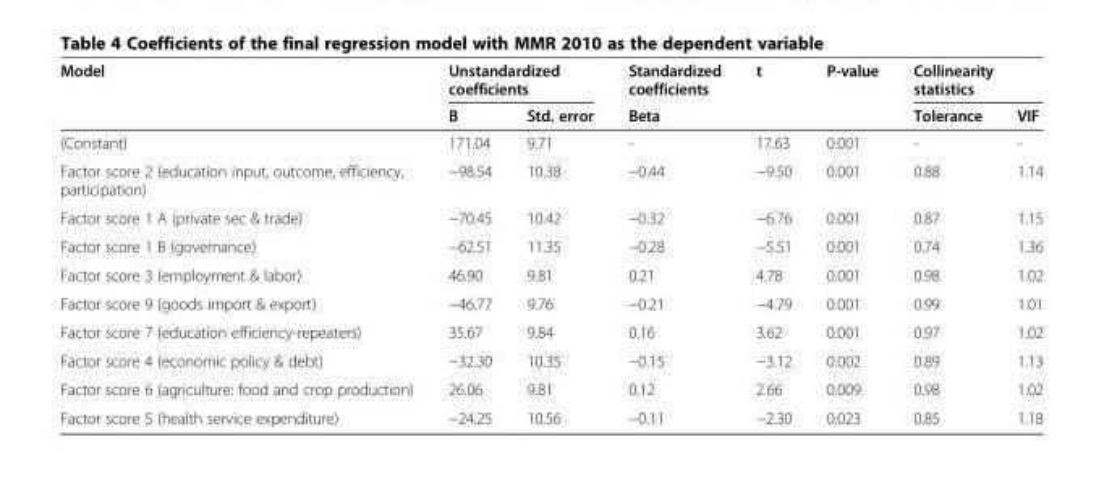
<table><thead><tr><td rowspan="2">Model</td><td colspan="2">Unstandardized coefficients</td><td rowspan="2">Standardized coefficients Beta</td><td rowspan="2">t</td><td rowspan="2">P-value</td><td colspan="2">Collinearity statistics</td></tr><tr><td>B</td><td>Std. error</td><td>Tolerance</td><td>VIF</td></tr></thead><tbody><tr><td>(Constant)</td><td>171.04</td><td>9.71</td><td>-</td><td>17.63</td><td>0.001</td><td>-</td><td>-</td></tr><tr><td>Factor score 2 (education input, outcome, efficiency, participation)</td><td>−98.54</td><td>10.38</td><td>−0.44</td><td>−9.50</td><td>0.001</td><td>0.88</td><td>1.14</td></tr><tr><td>Factor score 1 A (private sec &amp; trade)</td><td>−70.45</td><td>10.42</td><td>−0.32</td><td>−6.76</td><td>0.001</td><td>0.87</td><td>1.15</td></tr><tr><td>Factor score 1 B (governance)</td><td>−62.51</td><td>11.35</td><td>−0.28</td><td>−5.51</td><td>0.001</td><td>0.74</td><td>1.36</td></tr><tr><td>Factor score 3 (employment &amp; labor)</td><td>46.90</td><td>9.81</td><td>0.21</td><td>4.78</td><td>0.001</td><td>0.98</td><td>1.02</td></tr><tr><td>Factor score 9 (goods import &amp; export)</td><td>−46.77</td><td>9.76</td><td>−0.21</td><td>−4.79</td><td>0.001</td><td>0.99</td><td>1.01</td></tr><tr><td>Factor score 7 (education efficiency-repeaters)</td><td>35.67</td><td>9.84</td><td>0.16</td><td>3.62</td><td>0.001</td><td>0.97</td><td>1.02</td></tr><tr><td>Factor score 4 (economic policy &amp; debt)</td><td>−32.30</td><td>10.35</td><td>−0.15</td><td>−3.12</td><td>0.002</td><td>0.89</td><td>1.13</td></tr><tr><td>Factor score 6 (agriculture: food and crop production)</td><td>26.06</td><td>9.81</td><td>0.12</td><td>2.66</td><td>0.009</td><td>0.98</td><td>1.02</td></tr><tr><td>Factor score 5 (health service expenditure)</td><td>−24.25</td><td>10.56</td><td>−0.11</td><td>−2.30</td><td>0.023</td><td>0.85</td><td>1.18</td></tr></tbody></table>